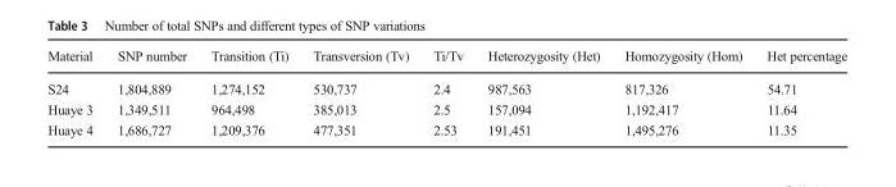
<table><thead><tr><td>Material</td><td>SNP number</td><td>Transition (Ti)</td><td>Transversion (Tv)</td><td>Ti/Tv</td><td>Heterozygosity (Het)</td><td>Homozygosity (Hom)</td><td>Het percentage</td></tr></thead><tbody><tr><td>S24</td><td>1,804,889</td><td>1,274,152</td><td>530,737</td><td>2.4</td><td>987,563</td><td>817,326</td><td>54.71</td></tr><tr><td>Huaye 3</td><td>1,349,511</td><td>964,498</td><td>385,013</td><td>2.5</td><td>157,094</td><td>1,192,417</td><td>11.64</td></tr><tr><td>Huaye 4</td><td>1,686,727</td><td>1,209,376</td><td>477,351</td><td>2.53</td><td>191,451</td><td>1,495,276</td><td>11.35</td></tr></tbody></table>